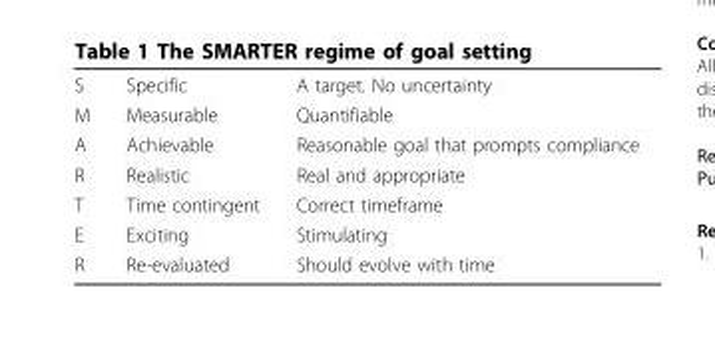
<table><tbody><tr><td>S</td><td>Specific</td><td>A target. No uncertainty</td></tr><tr><td>M</td><td>Measurable</td><td>Quantifiable</td></tr><tr><td>A</td><td>Achievable</td><td>Reasonable goal that prompts compliance</td></tr><tr><td>R</td><td>Realistic</td><td>Real and appropriate</td></tr><tr><td>T</td><td>Time contingent</td><td>Correct timeframe</td></tr><tr><td>E</td><td>Exciting</td><td>Stimulating</td></tr><tr><td>R</td><td>Re-evaluated</td><td>Should evolve with time</td></tr></tbody></table>